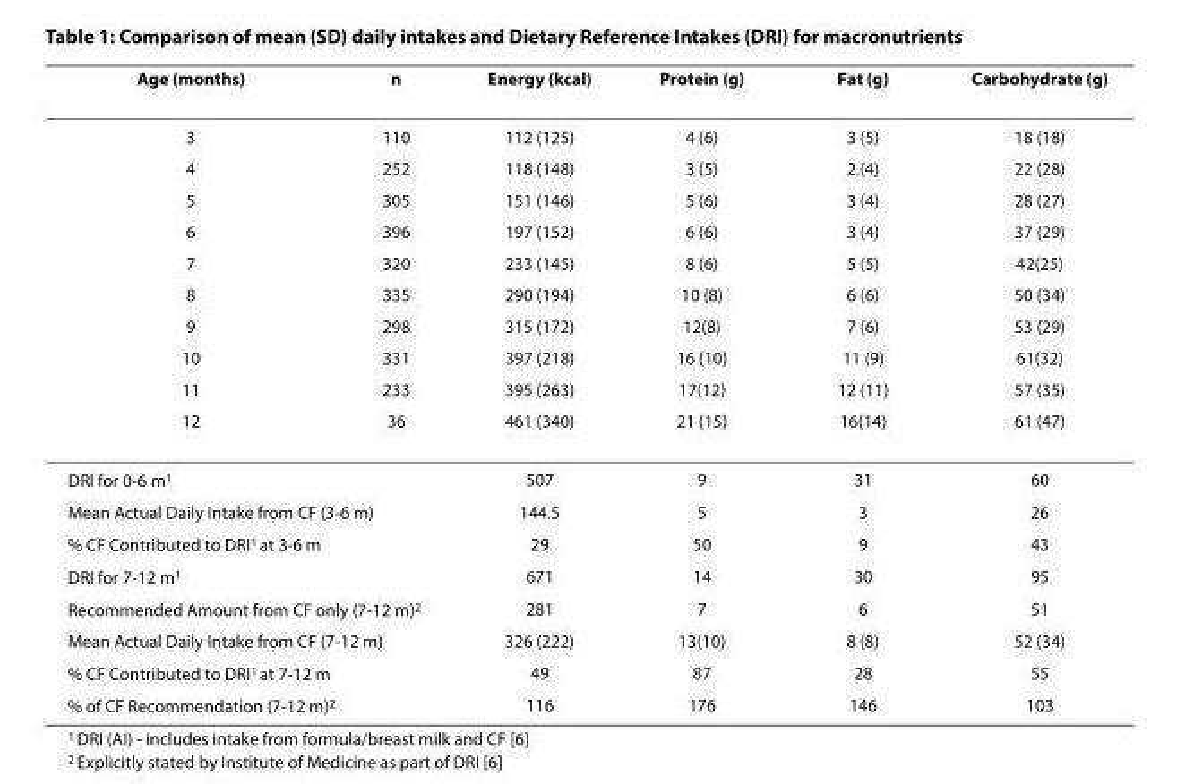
<table><thead><tr><td>Age (months)</td><td>n</td><td>Energy (kcal)</td><td>Protein (g)</td><td>Fat (g)</td><td>Carbohydrate (g)</td></tr></thead><tbody><tr><td>3</td><td>110</td><td>112 (125)</td><td>4 (6)</td><td>3 (5)</td><td>18 (18)</td></tr><tr><td>4</td><td>252</td><td>118 (148)</td><td>3 (5)</td><td>2.(4)</td><td>22 (28)</td></tr><tr><td>5</td><td>305</td><td>151 (146)</td><td>5 (6)</td><td>3 (4)</td><td>28 (27)</td></tr><tr><td>6</td><td>396</td><td>197 (152)</td><td>6 (6)</td><td>3 (4)</td><td>37 (29)</td></tr><tr><td>7</td><td>320</td><td>233 (145)</td><td>8 (6)</td><td>5 (5)</td><td>42(25)</td></tr><tr><td>8</td><td>335</td><td>290 (194)</td><td>10 (8)</td><td>6 (6)</td><td>50 (34)</td></tr><tr><td>9</td><td>298</td><td>315 (172)</td><td>12(8)</td><td>7 (6)</td><td>53 (29)</td></tr><tr><td>10</td><td>331</td><td>397 (218)</td><td>16 (10)</td><td>11 (9)</td><td>61(32)</td></tr><tr><td>11</td><td>233</td><td>395 (263)</td><td>17(12)</td><td>12 (11)</td><td>57 (35)</td></tr><tr><td>12</td><td>36</td><td>461 (340)</td><td>21 (15)</td><td>16(14)</td><td>61 (47)</td></tr><tr><td colspan="2">DRI for 0-6 m<sup>1</sup></td><td>507</td><td>9</td><td>31</td><td>60</td></tr><tr><td colspan="2">Mean Actual Daily Intake from CF (3-6 m)</td><td>144.5</td><td>5</td><td>3</td><td>26</td></tr><tr><td colspan="2">% CF Contributed to DRI<sup>1</sup> at 3-6 m</td><td>29</td><td>50</td><td>9</td><td>43</td></tr><tr><td colspan="2">DRI for 7-12 m<sup>1</sup></td><td>671</td><td>14</td><td>30</td><td>95</td></tr><tr><td colspan="2">Recommended Amount from CF only (7-12 m)<sup>2</sup></td><td>281</td><td>7</td><td>6</td><td>51</td></tr><tr><td colspan="2">Mean Actual Daily Intake from CF (7-12 m)</td><td>326 (222)</td><td>13(10)</td><td>8 (8)</td><td>52 (34)</td></tr><tr><td colspan="2">% CF Contributed to DRI<sup>1</sup> at 7-12 m</td><td>49</td><td>87</td><td>28</td><td>55</td></tr><tr><td colspan="2">% of CF Recommendation (7-12 m)<sup>2</sup></td><td>116</td><td>176</td><td>146</td><td>103</td></tr></tbody></table>